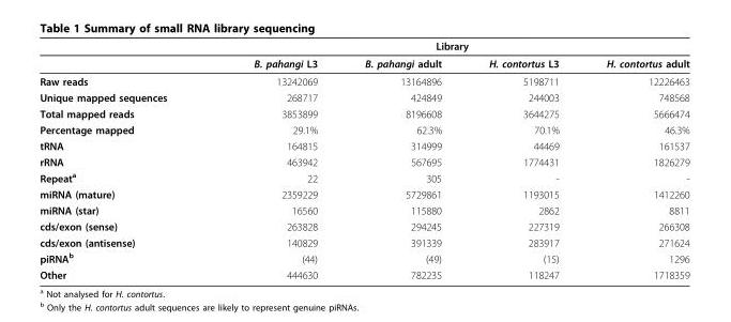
<table><thead><tr><td rowspan="2"></td><td colspan="4">Library</td></tr><tr><td>B. pahangi L3</td><td>B. pahangi adult</td><td>H. contortus L3</td><td>H. contortus adult</td></tr></thead><tbody><tr><td>Raw reads</td><td>13242069</td><td>13164896</td><td>5198711</td><td>12226463</td></tr><tr><td>Unique mapped sequences</td><td>268717</td><td>424849</td><td>244003</td><td>748568</td></tr><tr><td>Total mapped reads</td><td>3853899</td><td>8196608</td><td>3644275</td><td>5666474</td></tr><tr><td>Percentage mapped</td><td>29.1%</td><td>62.3%</td><td>70.1%</td><td>46.3%</td></tr><tr><td>tRNA</td><td>164815</td><td>314999</td><td>44469</td><td>161537</td></tr><tr><td>rRNA</td><td>463942</td><td>567695</td><td>1774431</td><td>1826279</td></tr><tr><td>Repeat<sup>a</sup></td><td>22</td><td>305</td><td>-</td><td>-</td></tr><tr><td>miRNA (mature)</td><td>2359229</td><td>5729861</td><td>1193015</td><td>1412260</td></tr><tr><td>miRNA (star)</td><td>16560</td><td>115880</td><td>2862</td><td>8811</td></tr><tr><td>cds/exon (sense)</td><td>263828</td><td>294245</td><td>227319</td><td>266308</td></tr><tr><td>cds/exon (antisense)</td><td>140829</td><td>391339</td><td>283917</td><td>271624</td></tr><tr><td>piRNA<sup>b</sup></td><td>(44)</td><td>(49)</td><td>(15)</td><td>1296</td></tr><tr><td>Other</td><td>444630</td><td>782235</td><td>118247</td><td>1718359</td></tr></tbody></table>